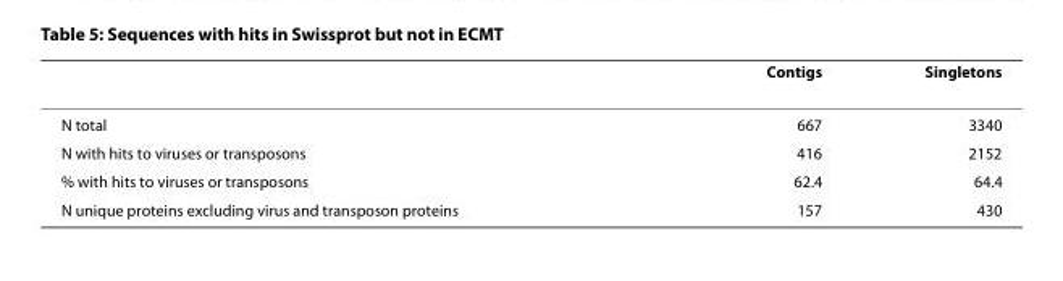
<table><thead><tr><td></td><td>Contigs</td><td>Singletons</td></tr></thead><tbody><tr><td>N total</td><td>667</td><td>3340</td></tr><tr><td>N with hits to viruses or transposons</td><td>416</td><td>2152</td></tr><tr><td>% with hits to viruses or transposons</td><td>62.4</td><td>64.4</td></tr><tr><td>N unique proteins excluding virus and transposon proteins</td><td>157</td><td>430</td></tr></tbody></table>